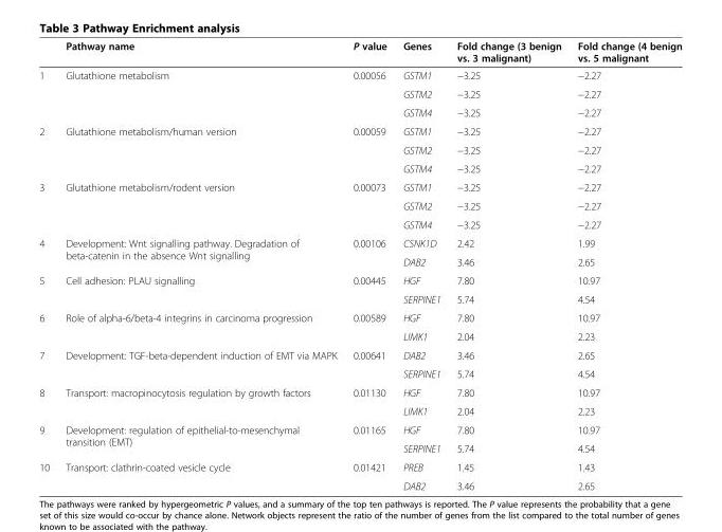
<table><thead><tr><td></td><td>Pathway name</td><td>P value</td><td>Genes</td><td>Fold change (3 benign vs. 3 malignant)</td><td>Fold change (4 benign vs. 5 malignant</td></tr></thead><tbody><tr><td rowspan="3">1</td><td rowspan="3">Glutathione metabolism</td><td rowspan="3">0.00056</td><td>GSTM1</td><td>−3.25</td><td>−2.27</td></tr><tr><td>GSTM2</td><td>−3.25</td><td>−2.27</td></tr><tr><td>GSTM4</td><td>−3.25</td><td>−2.27</td></tr><tr><td rowspan="3">2</td><td rowspan="3">Glutathione metabolism/human version</td><td rowspan="3">0.00059</td><td>GSTM1</td><td>−3.25</td><td>−2.27</td></tr><tr><td>GSTM2</td><td>−3.25</td><td>−2.27</td></tr><tr><td>GSTM4</td><td>−3.25</td><td>−2.27</td></tr><tr><td rowspan="3">3</td><td rowspan="3">Glutathione metabolism/rodent version</td><td rowspan="3">0.00073</td><td>GSTM1</td><td>−3.25</td><td>−2.27</td></tr><tr><td>GSTM2</td><td>−3.25</td><td>−2.27</td></tr><tr><td>GSTM4</td><td>−3.25</td><td>−2.27</td></tr><tr><td rowspan="2">4</td><td rowspan="2">Development: Wnt signalling pathway. Degradation of beta-catenin in the absence Wnt signalling</td><td rowspan="2">0.00106</td><td>CSNK1D</td><td>2.42</td><td>1.99</td></tr><tr><td>DAB2</td><td>3.46</td><td>2.65</td></tr><tr><td rowspan="2">5</td><td rowspan="2">Cell adhesion: PLAU signalling</td><td rowspan="2">0.00445</td><td>HGF</td><td>7.80</td><td>10.97</td></tr><tr><td>SERPINE1</td><td>5.74</td><td>4.54</td></tr><tr><td rowspan="2">6</td><td rowspan="2">Role of alpha-6/beta-4 integrins in carcinoma progression</td><td rowspan="2">0.00589</td><td>HGF</td><td>7.80</td><td>10.97</td></tr><tr><td>LIMK1</td><td>2.04</td><td>2.23</td></tr><tr><td rowspan="2">7</td><td rowspan="2">Development: TGF-beta-dependent induction of EMT via MAPK</td><td rowspan="2">0.00641</td><td>DAB2</td><td>3.46</td><td>2.65</td></tr><tr><td>SERPINE1</td><td>5.74</td><td>4.54</td></tr><tr><td rowspan="2">8</td><td rowspan="2">Transport: macropinocytosis regulation by growth factors</td><td rowspan="2">0.01130</td><td>HGF</td><td>7.80</td><td>10.97</td></tr><tr><td>LIMK1</td><td>2.04</td><td>2.23</td></tr><tr><td rowspan="2">9</td><td rowspan="2">Development: regulation of epithelial-to-mesenchymal transition (EMT)</td><td rowspan="2">0.01165</td><td>HGF</td><td>7.80</td><td>10.97</td></tr><tr><td>SERPINE1</td><td>5.74</td><td>4.54</td></tr><tr><td rowspan="2">10</td><td rowspan="2">Transport: clathrin-coated vesicle cycle</td><td rowspan="2">0.01421</td><td>PREB</td><td>1.45</td><td>1.43</td></tr><tr><td>DAB2</td><td>3.46</td><td>2.65</td></tr></tbody></table>